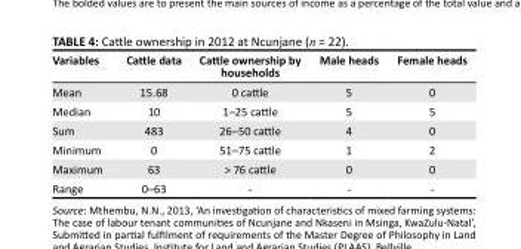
<table><thead><tr><td>Variables</td><td>Cattle data</td><td>Cattle ownership by households</td><td>Male heads</td><td>Female heads</td></tr></thead><tbody><tr><td>Mean</td><td>15.68</td><td>0 cattle</td><td>5</td><td>0</td></tr><tr><td>Median</td><td>10</td><td>1–25 cattle</td><td>5</td><td>5</td></tr><tr><td>Sum</td><td>483</td><td>26–50 cattle</td><td>4</td><td>0</td></tr><tr><td>Minimum</td><td>0</td><td>51–75 cattle</td><td>1</td><td>2</td></tr><tr><td>Maximum</td><td>63</td><td>&gt; 76 cattle</td><td>0</td><td>0</td></tr><tr><td>Range</td><td>0–63</td><td>-</td><td>-</td><td>-</td></tr></tbody></table>